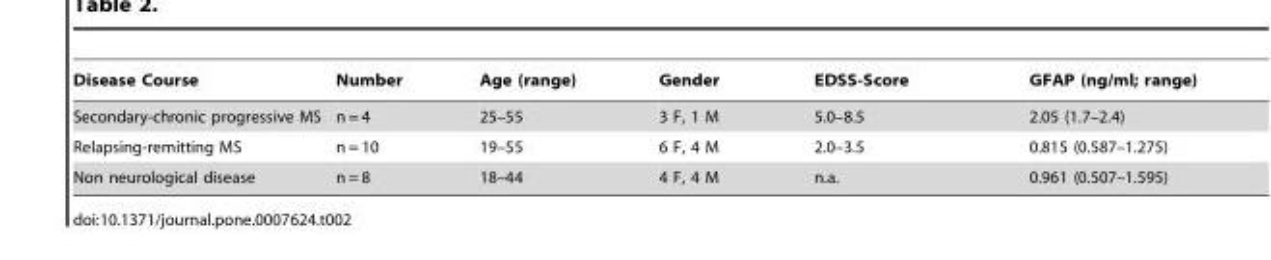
<table><thead><tr><td>Disease Course</td><td>Number</td><td>Age (range)</td><td>Gender</td><td>EDSS-Score</td><td>GFAP (ng/ml; range)</td></tr></thead><tbody><tr><td>Secondary-chronic progressive MS</td><td>n = 4</td><td>25–55</td><td>3 F, 1 M</td><td>5.0–8.5</td><td>2.05 (1.7–2.4)</td></tr><tr><td>Relapsing-remitting MS</td><td>n = 10</td><td>19–55</td><td>6 F, 4 M</td><td>2.0–3.5</td><td>0.815 (0.587–1.275)</td></tr><tr><td>Non neurological disease</td><td>n = 8</td><td>18–44</td><td>4 F, 4 M</td><td>n.a.</td><td>0.961 (0.507–1.595)</td></tr></tbody></table>